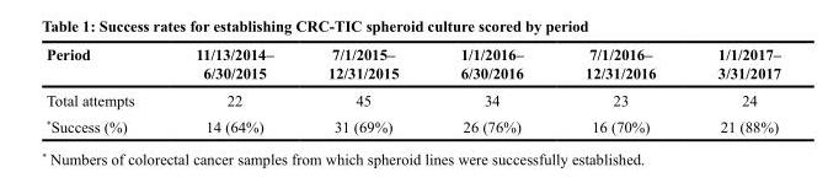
<table><thead><tr><td>Period</td><td>11/13/2014– 6/30/2015</td><td>7/1/2015– 12/31/2015</td><td>1/1/2016– 6/30/2016</td><td>7/1/2016– 12/31/2016</td><td>1/1/2017– 3/31/2017</td></tr></thead><tbody><tr><td>Total attempts</td><td>22</td><td>45</td><td>34</td><td>23</td><td>24</td></tr><tr><td>*Success (%)</td><td>14 (64%)</td><td>31 (69%)</td><td>26 (76%)</td><td>16 (70%)</td><td>21 (88%)</td></tr></tbody></table>